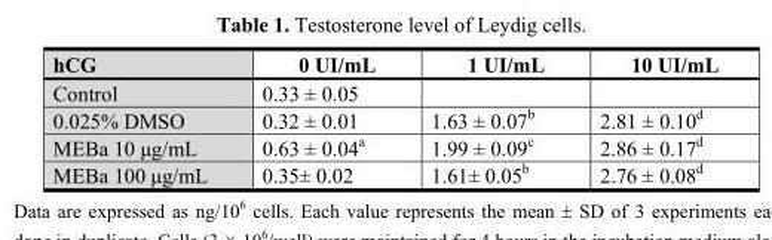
<table><thead><tr><td>hCG</td><td>0 UI/mL</td><td>1 UI/mL</td><td>10 UI/mL</td></tr></thead><tbody><tr><td>Control</td><td>0.33 ± 0.05</td><td></td><td></td></tr><tr><td>0.025% DMSO</td><td>0.32 ± 0.01</td><td>1.63 ± 0.07<sup>b</sup></td><td>2.81 ± 0.10<sup>d</sup></td></tr><tr><td>MEBa 10 μg/mL</td><td>0.63 ± 0.04<sup>a</sup></td><td>1.99 ± 0.09<sup>c</sup></td><td>2.86 ± 0.17<sup>d</sup></td></tr><tr><td>MEBa 100 μg/mL</td><td>0.35± 0.02</td><td>1.61± 0.05<sup>b</sup></td><td>2.76 ± 0.08<sup>d</sup></td></tr></tbody></table>